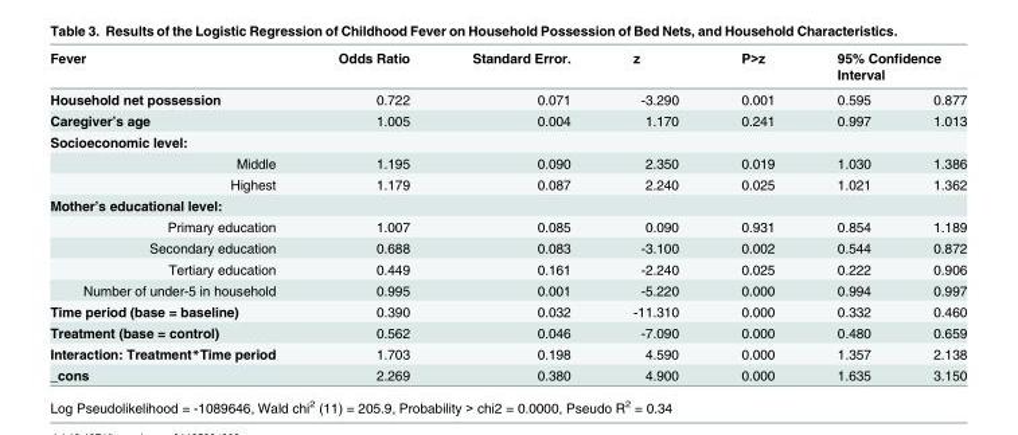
<table><thead><tr><td rowspan="2">Fever Household net possession</td><td rowspan="2">Odds Ratio 0.722</td><td rowspan="2">Standard Error. 0.071</td><td rowspan="2">z -3.290</td><td rowspan="2">P&gt;z 0.001</td><td colspan="2">95% Confidence Interval</td></tr><tr><td>0.595</td><td>0.877</td></tr></thead><tbody><tr><td>Caregiver’s age</td><td>1.005</td><td>0.004</td><td>1.170</td><td>0.241</td><td>0.997</td><td>1.013</td></tr><tr><td colspan="7">Socioeconomic level:</td></tr><tr><td>Middle</td><td>1.195</td><td>0.090</td><td>2.350</td><td>0.019</td><td>1.030</td><td>1.386</td></tr><tr><td>Highest</td><td>1.179</td><td>0.087</td><td>2.240</td><td>0.025</td><td>1.021</td><td>1.362</td></tr><tr><td colspan="7">Mother’s educational level:</td></tr><tr><td>Primary education</td><td>1.007</td><td>0.085</td><td>0.090</td><td>0.931</td><td>0.854</td><td>1.189</td></tr><tr><td>Secondary education</td><td>0.688</td><td>0.083</td><td>-3.100</td><td>0.002</td><td>0.544</td><td>0.872</td></tr><tr><td>Tertiary education</td><td>0.449</td><td>0.161</td><td>-2.240</td><td>0.025</td><td>0.222</td><td>0.906</td></tr><tr><td>Number of under-5 in household</td><td>0.995</td><td>0.001</td><td>-5.220</td><td>0.000</td><td>0.994</td><td>0.997</td></tr><tr><td>Time period (base = baseline)</td><td>0.390</td><td>0.032</td><td>-11.310</td><td>0.000</td><td>0.332</td><td>0.460</td></tr><tr><td>Treatment (base = control)</td><td>0.562</td><td>0.046</td><td>-7.090</td><td>0.000</td><td>0.480</td><td>0.659</td></tr><tr><td>Interaction: Treatment*Time period</td><td>1.703</td><td>0.198</td><td>4.590</td><td>0.000</td><td>1.357</td><td>2.138</td></tr><tr><td>_cons</td><td>2.269</td><td>0.380</td><td>4.900</td><td>0.000</td><td>1.635</td><td>3.150</td></tr></tbody></table>